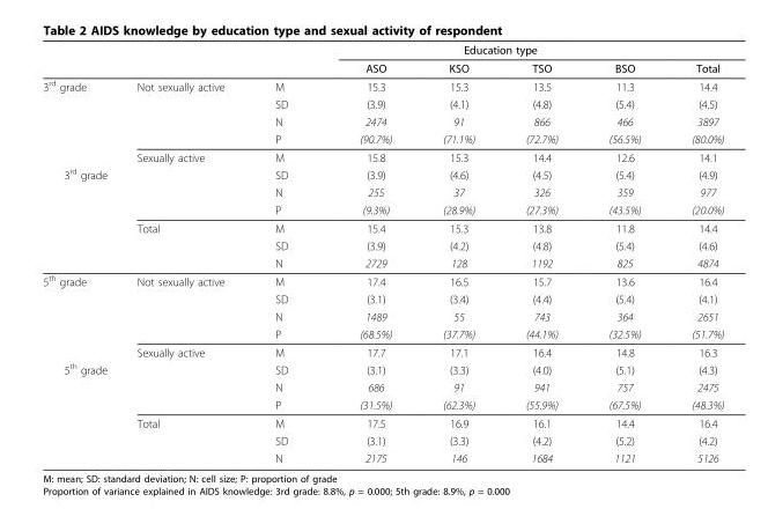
<table><thead><tr><td rowspan="2"></td><td rowspan="2"></td><td rowspan="2"></td><td colspan="4">Education type</td><td rowspan="2">Total</td></tr><tr><td>ASO</td><td>KSO</td><td>TSO</td><td>BSO</td></tr></thead><tbody><tr><td rowspan="5">3<sup>rd</sup> grade</td><td>Not sexually active</td><td>M</td><td>15.3</td><td>15.3</td><td>13.5</td><td>11.3</td><td>14.4</td></tr><tr><td></td><td>SD</td><td>(3.9)</td><td>(4.1)</td><td>(4.8)</td><td>(5.4)</td><td>(4.5)</td></tr><tr><td></td><td>N</td><td>2474</td><td>91</td><td>866</td><td>466</td><td>3897</td></tr><tr><td></td><td>P</td><td>(90.7%)</td><td>(71.1%)</td><td>(72.7%)</td><td>(56.5%)</td><td>(80.0%)</td></tr><tr><td>Sexually active</td><td>M</td><td>15.8</td><td>15.3</td><td>14.4</td><td>12.6</td><td>14.1</td></tr><tr><td rowspan="6">3<sup>rd</sup> grade</td><td></td><td>SD</td><td>(3.9)</td><td>(4.6)</td><td>(4.5)</td><td>(5.4)</td><td>(4.9)</td></tr><tr><td></td><td>N</td><td>255</td><td>37</td><td>326</td><td>359</td><td>977</td></tr><tr><td></td><td>P</td><td>(9.3%)</td><td>(28.9%)</td><td>(27.3%)</td><td>(43.5%)</td><td>(20.0%)</td></tr><tr><td>Total</td><td>M</td><td>15.4</td><td>15.3</td><td>13.8</td><td>11.8</td><td>14.4</td></tr><tr><td></td><td>SD</td><td>(3.9)</td><td>(4.2)</td><td>(4.8)</td><td>(5.4)</td><td>(4.6)</td></tr><tr><td></td><td>N</td><td>2729</td><td>128</td><td>1192</td><td>825</td><td>4874</td></tr><tr><td rowspan="5">5<sup>th</sup> grade</td><td>Not sexually active</td><td>M</td><td>17.4</td><td>16.5</td><td>15.7</td><td>13.6</td><td>16.4</td></tr><tr><td></td><td>SD</td><td>(3.1)</td><td>(3.4)</td><td>(4.4)</td><td>(5.4)</td><td>(4.1)</td></tr><tr><td></td><td>N</td><td>1489</td><td>55</td><td>743</td><td>364</td><td>2651</td></tr><tr><td></td><td>P</td><td>(68.5%)</td><td>(37.7%)</td><td>(44.1%)</td><td>(32.5%)</td><td>(51.7%)</td></tr><tr><td>Sexually active</td><td>M</td><td>17.7</td><td>17.1</td><td>16.4</td><td>14.8</td><td>16.3</td></tr><tr><td rowspan="6">5<sup>th</sup> grade</td><td></td><td>SD</td><td>(3.1)</td><td>(3.3)</td><td>(4.0)</td><td>(5.1)</td><td>(4.3)</td></tr><tr><td></td><td>N</td><td>686</td><td>91</td><td>941</td><td>757</td><td>2475</td></tr><tr><td></td><td>P</td><td>(31.5%)</td><td>(62.3%)</td><td>(55.9%)</td><td>(67.5%)</td><td>(48.3%)</td></tr><tr><td>Total</td><td>M</td><td>17.5</td><td>16.9</td><td>16.1</td><td>14.4</td><td>16.4</td></tr><tr><td></td><td>SD</td><td>(3.1)</td><td>(3.3)</td><td>(4.2)</td><td>(5.2)</td><td>(4.2)</td></tr><tr><td></td><td>N</td><td>2175</td><td>146</td><td>1684</td><td>1121</td><td>5126</td></tr></tbody></table>